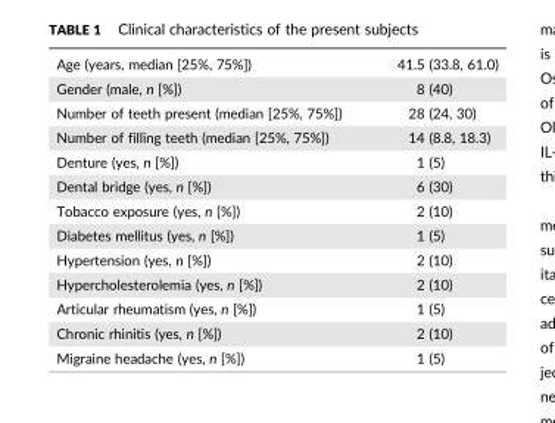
<table><tbody><tr><td>Age (years, median [25%, 75%])</td><td>41.5 (33.8, 61.0)</td></tr><tr><td>Gender (male, n [%])</td><td>8 (40)</td></tr><tr><td>Number of teeth present (median [25%, 75%])</td><td>28 (24, 30)</td></tr><tr><td>Number of filling teeth (median [25%, 75%])</td><td>14 (8.8, 18.3)</td></tr><tr><td>Denture (yes, n [%])</td><td>1 (5)</td></tr><tr><td>Dental bridge (yes, n [%])</td><td>6 (30)</td></tr><tr><td>Tobacco exposure (yes, n [%])</td><td>2 (10)</td></tr><tr><td>Diabetes mellitus (yes, n [%])</td><td>1 (5)</td></tr><tr><td>Hypertension (yes, n [%])</td><td>2 (10)</td></tr><tr><td>Hypercholesterolemia (yes, n [%])</td><td>2 (10)</td></tr><tr><td>Articular rheumatism (yes, n [%])</td><td>1 (5)</td></tr><tr><td>Chronic rhinitis (yes, n [%])</td><td>2 (10)</td></tr><tr><td>Migraine headache (yes, n [%])</td><td>1 (5)</td></tr></tbody></table>